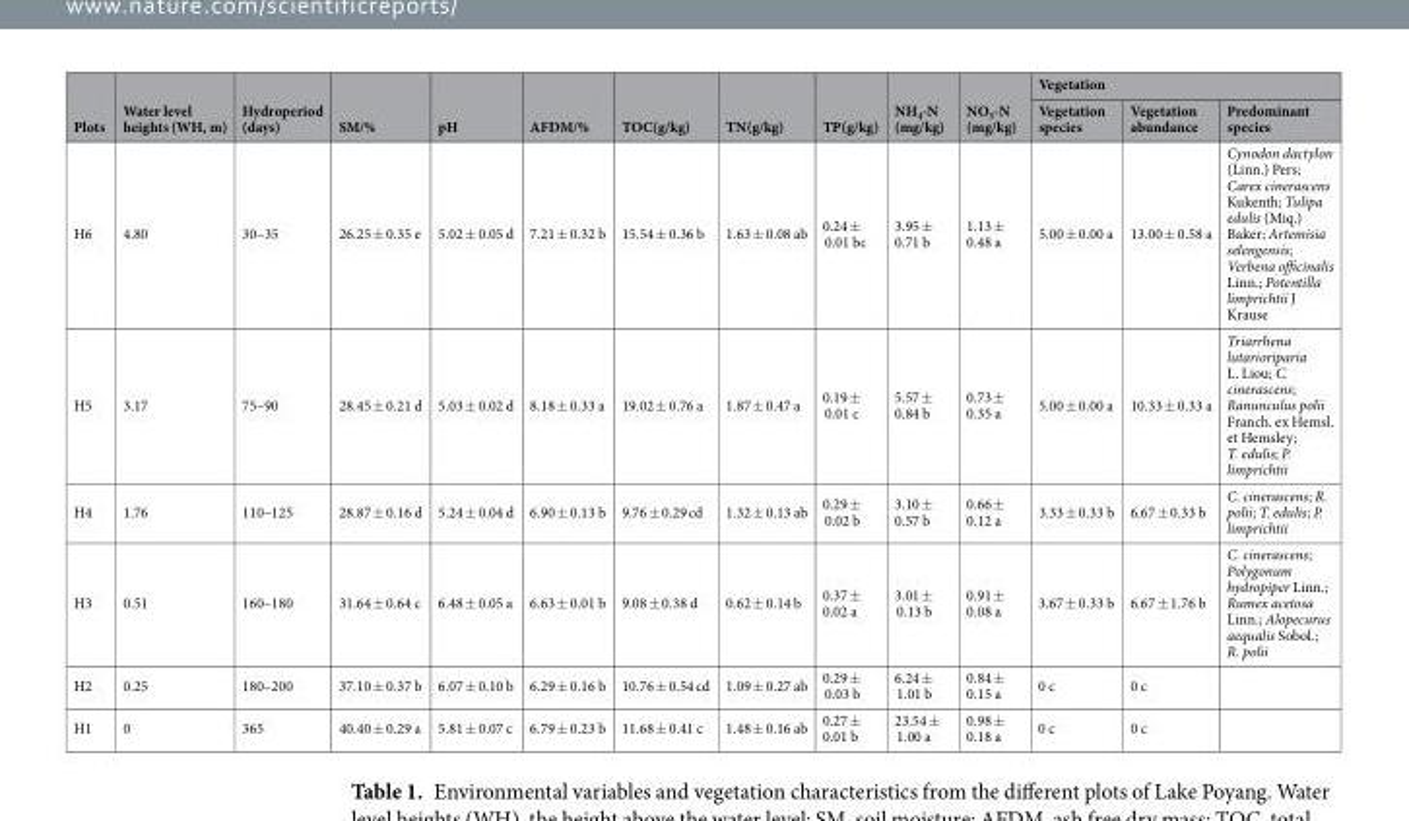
<table><thead><tr><td rowspan="2">Plots</td><td rowspan="2">Water level heights (WH, m)</td><td rowspan="2">Hydroperiod (days)</td><td rowspan="2">SM/%</td><td rowspan="2">pH</td><td rowspan="2">AFDM/%</td><td rowspan="2">TOC(g/kg)</td><td rowspan="2">TN(g/kg)</td><td rowspan="2">TP(g/kg)</td><td rowspan="2">NH<sub>4</sub>-N (mg/kg)</td><td rowspan="2">NO<sub>3</sub>-N (mg/kg)</td><td colspan="3">Vegetation</td></tr><tr><td>Vegetation species</td><td>Vegetation abundance</td><td>Predominant species</td></tr></thead><tbody><tr><td>H6</td><td>4.80</td><td>30–35</td><td>26.25 ± 0.35 e</td><td>5.02 ± 0.05 d</td><td>7.21 ± 0.32 b</td><td>15.54 ± 0.36 b</td><td>1.63 ± 0.08 ab</td><td>0.24 ± 0.01 bc</td><td>3.95 ± 0.71 b</td><td>1.13 ± 0.48 a</td><td>5.00 ± 0.00 a</td><td>13.00 ± 0.58 a</td><td>Cynodon dactylon (Linn.) Pers; Carex cinerascens Kukenth; Tulipa edulis (Miq.) Baker; Artemisia selengensis; Verbena officinalis Linn.; Potentilla limprichtii J Krause</td></tr><tr><td>H5</td><td>3.17</td><td>75–90</td><td>28.45 ± 0.21 d</td><td>5.03 ± 0.02 d</td><td>8.18 ± 0.33 a</td><td>19.02 ± 0.76 a</td><td>1.87 ± 0.47 a</td><td>0.19 ± 0.01 c</td><td>5.57 ± 0.84 b</td><td>0.73 ± 0.35 a</td><td>5.00 ± 0.00 a</td><td>10.33 ± 0.33 a</td><td>Triarrhena lutarioriparia L. Liou; C. cinerascens; Ranunculus polii Franch. ex Hemsl. et Hemsley; T. edulis; P. limprichtii</td></tr><tr><td>H4</td><td>1.76</td><td>110–125</td><td>28.87 ± 0.16 d</td><td>5.24 ± 0.04 d</td><td>6.90 ± 0.13 b</td><td>9.76 ± 0.29 cd</td><td>1.32 ± 0.13 ab</td><td>0.29 ± 0.02 b</td><td>3.10 ± 0.57 b</td><td>0.66 ± 0.12 a</td><td>3.33 ± 0.33 b</td><td>6.67 ± 0.33 b</td><td>C. cinerascens; R. polii; T. edulis; P. limprichtii</td></tr><tr><td>H3</td><td>0.51</td><td>160–180</td><td>31.64 ± 0.64 c</td><td>6.48 ± 0.05 a</td><td>6.63 ± 0.01 b</td><td>9.08 ± 0.38 d</td><td>0.62 ± 0.14 b</td><td>0.37 ± 0.02 a</td><td>3.01 ± 0.13 b</td><td>0.91 ± 0.08 a</td><td>3.67 ± 0.33 b</td><td>6.67 ± 1.76 b</td><td>C. cinerascens; Polygonum hydropiper Linn.; Rumex acetosa Linn.; Alopecurus aequalis Sobol.; R. polii</td></tr><tr><td>H2</td><td>0.25</td><td>180–200</td><td>37.10 ± 0.37 b</td><td>6.07 ± 0.10 b</td><td>6.29 ± 0.16 b</td><td>10.76 ± 0.54 cd</td><td>1.09 ± 0.27 ab</td><td>0.29 ± 0.03 b</td><td>6.24 ± 1.01 b</td><td>0.84 ± 0.15 a</td><td>0 c</td><td>0 c</td><td></td></tr><tr><td>H1</td><td>0</td><td>365</td><td>40.40 ± 0.29 a</td><td>5.81 ± 0.07 c</td><td>6.79 ± 0.23 b</td><td>11.68 ± 0.41 c</td><td>1.48 ± 0.16 ab</td><td>0.27 ± 0.01 b</td><td>23.54 ± 1.00 a</td><td>0.98 ± 0.18 a</td><td>0 c</td><td>0 c</td><td></td></tr></tbody></table>